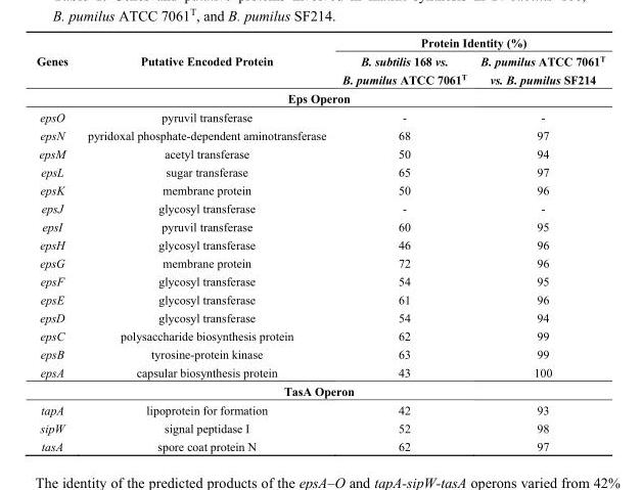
<table><thead><tr><td rowspan="2">Genes</td><td rowspan="2">Putative Encoded Protein</td><td colspan="2">Protein Identity (%)</td></tr><tr><td>B. subtilis 168 vs. B. pumilus ATCC 7061<sup>T</sup></td><td>B. pumilus ATCC 7061<sup>T</sup> vs. B. pumilus SF214</td></tr></thead><tbody><tr><td colspan="4">Eps Operon</td></tr><tr><td>epsO</td><td>pyruvil transferase</td><td>-</td><td>-</td></tr><tr><td>epsN</td><td>pyridoxal phosphate-dependent aminotransferase</td><td>68</td><td>97</td></tr><tr><td>epsM</td><td>acetyl transferase</td><td>50</td><td>94</td></tr><tr><td>epsL</td><td>sugar transferase</td><td>65</td><td>97</td></tr><tr><td>epsK</td><td>membrane protein</td><td>50</td><td>96</td></tr><tr><td>epsJ</td><td>glycosyl transferase</td><td>-</td><td>-</td></tr><tr><td>epsI</td><td>pyruvil transferase</td><td>60</td><td>95</td></tr><tr><td>epsH</td><td>glycosyl transferase</td><td>46</td><td>96</td></tr><tr><td>epsG</td><td>membrane protein</td><td>72</td><td>96</td></tr><tr><td>epsF</td><td>glycosyl transferase</td><td>54</td><td>95</td></tr><tr><td>epsE</td><td>glycosyl transferase</td><td>61</td><td>96</td></tr><tr><td>epsD</td><td>glycosyl transferase</td><td>54</td><td>94</td></tr><tr><td>epsC</td><td>polysaccharide biosynthesis protein</td><td>62</td><td>99</td></tr><tr><td>epsB</td><td>tyrosine-protein kinase</td><td>63</td><td>99</td></tr><tr><td>epsA</td><td>capsular biosynthesis protein</td><td>43</td><td>100</td></tr><tr><td colspan="4">TasA Operon</td></tr><tr><td>tapA</td><td>lipoprotein for formation</td><td>42</td><td>93</td></tr><tr><td>sipW</td><td>signal peptidase I</td><td>52</td><td>98</td></tr><tr><td>tasA</td><td>spore coat protein N</td><td>62</td><td>97</td></tr></tbody></table>